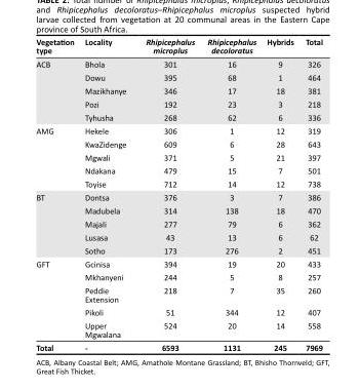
<table><thead><tr><td>Vegetation type</td><td>Locality</td><td>Rhipicephalus microplus</td><td>Rhipicephalus decoloratus</td><td>Hybrids</td><td>Total</td></tr></thead><tbody><tr><td rowspan="5">ACB</td><td>Bhola</td><td>301</td><td>16</td><td>9</td><td>326</td></tr><tr><td>Dowu</td><td>395</td><td>68</td><td>1</td><td>464</td></tr><tr><td>Mazikhanye</td><td>346</td><td>17</td><td>18</td><td>381</td></tr><tr><td>Pozi</td><td>192</td><td>23</td><td>3</td><td>218</td></tr><tr><td>Tyhusha</td><td>268</td><td>62</td><td>6</td><td>336</td></tr><tr><td rowspan="5">AMG</td><td>Hekele</td><td>306</td><td>1</td><td>12</td><td>319</td></tr><tr><td>KwaZidenge</td><td>609</td><td>6</td><td>28</td><td>643</td></tr><tr><td>Mgwali</td><td>371</td><td>5</td><td>21</td><td>397</td></tr><tr><td>Ndakana</td><td>479</td><td>15</td><td>7</td><td>501</td></tr><tr><td>Toyise</td><td>712</td><td>14</td><td>12</td><td>738</td></tr><tr><td rowspan="5">BT</td><td>Dontsa</td><td>376</td><td>3</td><td>7</td><td>386</td></tr><tr><td>Madubela</td><td>314</td><td>138</td><td>18</td><td>470</td></tr><tr><td>Majali</td><td>277</td><td>79</td><td>6</td><td>362</td></tr><tr><td>Lusasa</td><td>43</td><td>13</td><td>6</td><td>62</td></tr><tr><td>Sotho</td><td>173</td><td>276</td><td>2</td><td>451</td></tr><tr><td rowspan="5">GFT</td><td>Gcinisa</td><td>394</td><td>19</td><td>20</td><td>433</td></tr><tr><td>Mkhanyeni</td><td>244</td><td>5</td><td>8</td><td>257</td></tr><tr><td>Peddie Extension</td><td>218</td><td>7</td><td>35</td><td>260</td></tr><tr><td>Pikoli</td><td>51</td><td>344</td><td>12</td><td>407</td></tr><tr><td>Upper Mgwalana</td><td>524</td><td>20</td><td>14</td><td>558</td></tr><tr><td>Total</td><td>-</td><td>6593</td><td>1131</td><td>245</td><td>7969</td></tr></tbody></table>